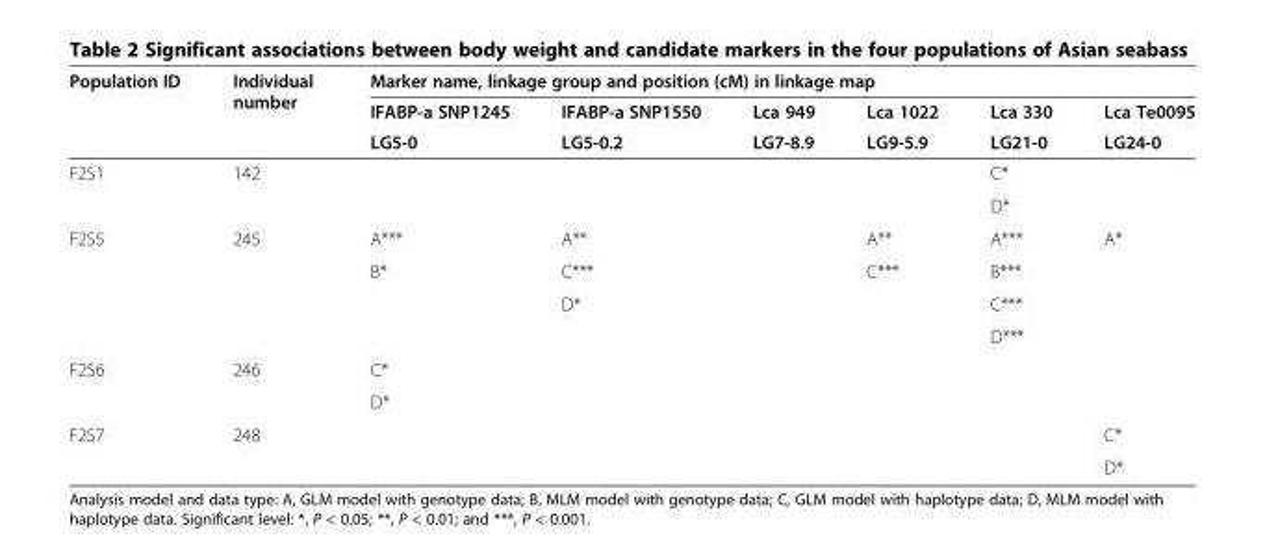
<table><thead><tr><td rowspan="3">Population ID</td><td rowspan="3">Individual number</td><td colspan="6">Marker name, linkage group and position (cM) in linkage map</td></tr><tr><td rowspan="2">IFABP-a SNP1245 LG5-0</td><td rowspan="2">IFABP-a SNP1550 LG5-0.2</td><td rowspan="2">Lca 949 LG7-8.9</td><td rowspan="2">Lca 1022 LG9-5.9</td><td rowspan="2">Lca 330 LG21-0</td><td rowspan="2">Lca Te0095 LG24-0</td></tr><tr></tr></thead><tbody><tr><td rowspan="2">F2S1</td><td rowspan="2">142</td><td></td><td></td><td></td><td></td><td>C*</td><td rowspan="2"></td></tr><tr><td></td><td></td><td></td><td></td><td>D*</td></tr><tr><td rowspan="4">F2S5</td><td rowspan="4">245</td><td>A***</td><td>A**</td><td></td><td>A**</td><td>A***</td><td rowspan="4">A*</td></tr><tr><td>B*</td><td>C***</td><td></td><td>C***</td><td>B***</td></tr><tr><td></td><td>D*</td><td></td><td></td><td>C***</td></tr><tr><td></td><td></td><td></td><td></td><td>D***</td></tr><tr><td rowspan="2">F2S6</td><td rowspan="2">246</td><td>C*</td><td></td><td></td><td></td><td></td><td rowspan="2"></td></tr><tr><td>D*</td><td></td><td></td><td></td><td></td></tr><tr><td rowspan="2">F2S7</td><td rowspan="2">248</td><td></td><td></td><td></td><td></td><td></td><td>C*</td></tr><tr><td></td><td></td><td></td><td></td><td></td><td>D*</td></tr></tbody></table>